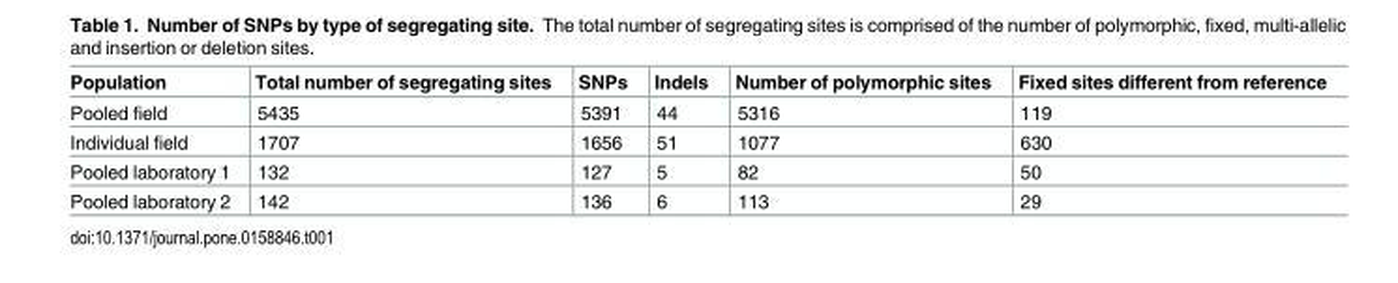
<table><thead><tr><td>Population</td><td>Total number of segregating sites</td><td>SNPs</td><td>Indels</td><td>Number of polymorphic sites</td><td>Fixed sites different from reference</td></tr></thead><tbody><tr><td>Pooled field</td><td>5435</td><td>5391</td><td>44</td><td>5316</td><td>119</td></tr><tr><td>Individual field</td><td>1707</td><td>1656</td><td>51</td><td>1077</td><td>630</td></tr><tr><td>Pooled laboratory 1</td><td>132</td><td>127</td><td>5</td><td>82</td><td>50</td></tr><tr><td>Pooled laboratory 2</td><td>142</td><td>136</td><td>6</td><td>113</td><td>29</td></tr></tbody></table>